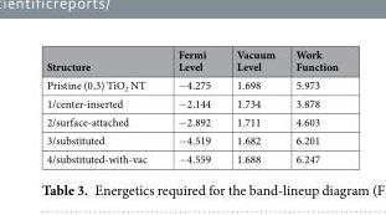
<table><thead><tr><td>Structure</td><td>Fermi Level</td><td>Vacuum Level</td><td>Work Function</td></tr></thead><tbody><tr><td>Pristine (0,3) TiO<sub>2</sub> NT</td><td>−4.275</td><td>1.698</td><td>5.973</td></tr><tr><td>1/center-inserted</td><td>−2.144</td><td>1.734</td><td>3.878</td></tr><tr><td>2/surface-attached</td><td>−2.892</td><td>1.711</td><td>4.603</td></tr><tr><td>3/substituted</td><td>−4.519</td><td>1.682</td><td>6.201</td></tr><tr><td>4/substituted-with-vac</td><td>−4.559</td><td>1.688</td><td>6.247</td></tr></tbody></table>